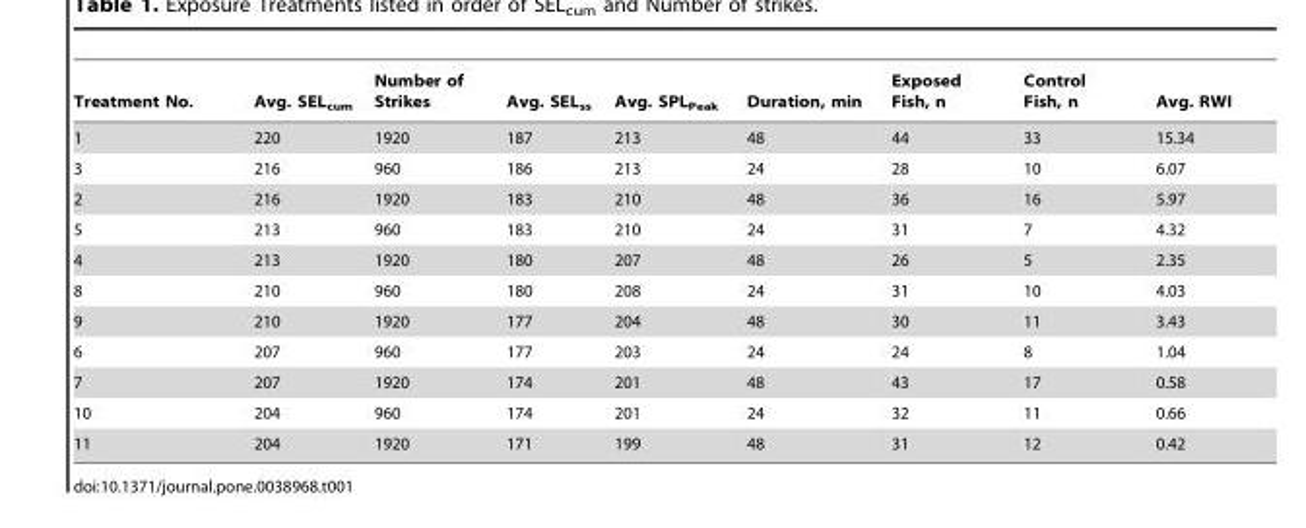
<table><thead><tr><td>Treatment No.</td><td>Avg. SEL<sub>cum</sub></td><td>Number of Strikes</td><td>Avg. SEL<sub>ss</sub></td><td>Avg. SPL<sub>Peak</sub></td><td>Duration, min</td><td>Exposed Fish, n</td><td>Control Fish, n</td><td>Avg. RWI</td></tr></thead><tbody><tr><td>1</td><td>220</td><td>1920</td><td>187</td><td>213</td><td>48</td><td>44</td><td>33</td><td>15.34</td></tr><tr><td>3</td><td>216</td><td>960</td><td>186</td><td>213</td><td>24</td><td>28</td><td>10</td><td>6.07</td></tr><tr><td>2</td><td>216</td><td>1920</td><td>183</td><td>210</td><td>48</td><td>36</td><td>16</td><td>5.97</td></tr><tr><td>5</td><td>213</td><td>960</td><td>183</td><td>210</td><td>24</td><td>31</td><td>7</td><td>4.32</td></tr><tr><td>4</td><td>213</td><td>1920</td><td>180</td><td>207</td><td>48</td><td>26</td><td>5</td><td>2.35</td></tr><tr><td>8</td><td>210</td><td>960</td><td>180</td><td>208</td><td>24</td><td>31</td><td>10</td><td>4.03</td></tr><tr><td>9</td><td>210</td><td>1920</td><td>177</td><td>204</td><td>48</td><td>30</td><td>11</td><td>3.43</td></tr><tr><td>6</td><td>207</td><td>960</td><td>177</td><td>203</td><td>24</td><td>24</td><td>8</td><td>1.04</td></tr><tr><td>7</td><td>207</td><td>1920</td><td>174</td><td>201</td><td>48</td><td>43</td><td>17</td><td>0.58</td></tr><tr><td>10</td><td>204</td><td>960</td><td>174</td><td>201</td><td>24</td><td>32</td><td>11</td><td>0.66</td></tr><tr><td>11</td><td>204</td><td>1920</td><td>171</td><td>199</td><td>48</td><td>31</td><td>12</td><td>0.42</td></tr></tbody></table>